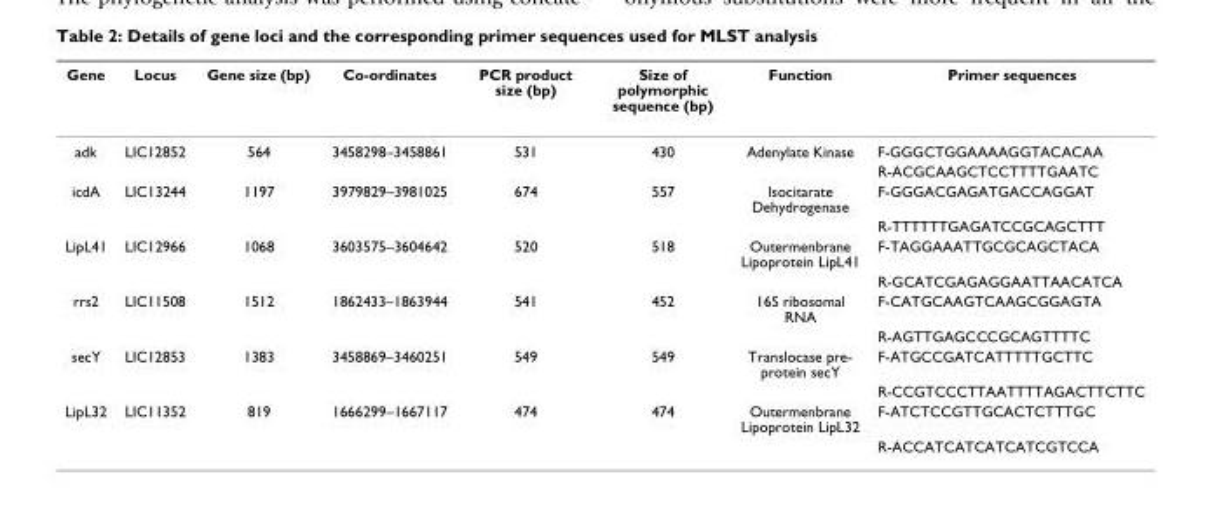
<table><thead><tr><td>Gene</td><td>Locus</td><td>Gene size (bp)</td><td>Co-ordinates</td><td>PCR product size (bp)</td><td>Size of polymorphic sequence (bp)</td><td>Function</td><td>Primer sequences</td></tr></thead><tbody><tr><td rowspan="2">adk</td><td>LIC12852</td><td>564</td><td>3458298–3458861</td><td>531</td><td>430</td><td>Adenylate Kinase</td><td>F-GGGCTGGAAAAGGTACACAA</td></tr><tr><td></td><td></td><td></td><td></td><td></td><td></td><td>R-ACGCAAGCTCCTTTTGAATC</td></tr><tr><td rowspan="2">icdA</td><td>LIC13244</td><td>1197</td><td>3979829–3981025</td><td>674</td><td>557</td><td>Isocitarate Dehydrogenase</td><td>F-GGGACGAGATGACCAGGAT</td></tr><tr><td></td><td></td><td></td><td></td><td></td><td></td><td>R-TTTTTTGAGATCCGCAGCTTT</td></tr><tr><td rowspan="2">LipL41</td><td>LIC12966</td><td>1068</td><td>3603575–3604642</td><td>520</td><td>518</td><td>Outermenbrane Lipoprotein LipL41</td><td>F-TAGGAAATTGCGCAGCTACA</td></tr><tr><td></td><td></td><td></td><td></td><td></td><td></td><td>R-GCATCGAGAGGAATTAACATCA</td></tr><tr><td rowspan="2">rrs2</td><td>LIC11508</td><td>1512</td><td>1862433–1863944</td><td>541</td><td>452</td><td>16S ribosomal RNA</td><td>F-CATGCAAGTCAAGCGGAGTA</td></tr><tr><td></td><td></td><td></td><td></td><td></td><td></td><td>R-AGTTGAGCCCGCAGTTTTC</td></tr><tr><td rowspan="2">secY</td><td>LIC12853</td><td>1383</td><td>3458869–3460251</td><td>549</td><td>549</td><td>Translocase pre- protein secY</td><td>F-ATGCCGATCATTTTTGCTTC</td></tr><tr><td></td><td></td><td></td><td></td><td></td><td></td><td>R-CCGTCCCTTAATTTTAGACTTCTTC</td></tr><tr><td rowspan="2">LipL32</td><td>LIC11352</td><td>819</td><td>1666299–1667117</td><td>474</td><td>474</td><td>Outermenbrane Lipoprotein LipL32</td><td>F-ATCTCCGTTGCACTCTTTGC</td></tr><tr><td></td><td></td><td></td><td></td><td></td><td></td><td>R-ACCATCATCATCATCGTCCA</td></tr></tbody></table>